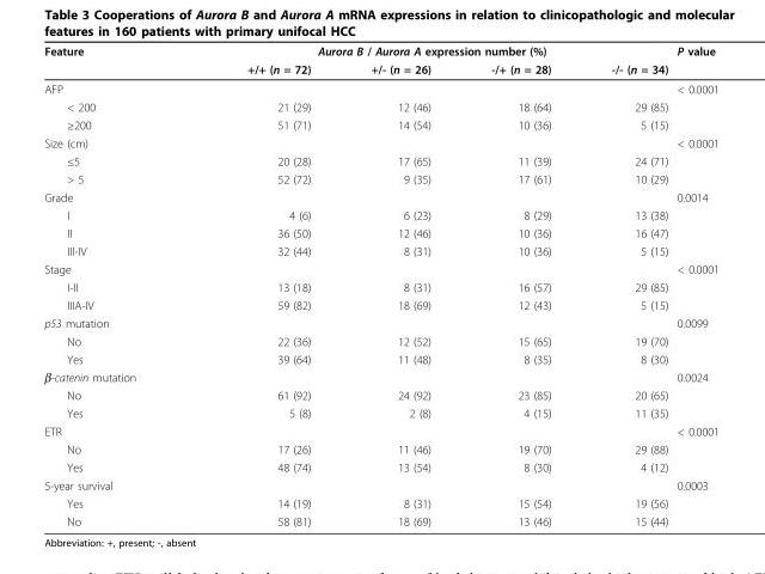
<table><thead><tr><td rowspan="2">Feature</td><td colspan="4">Aurora B / Aurora A expression number (%)</td><td rowspan="2">P value</td></tr><tr><td>+/+ (n = 72)</td><td>+/- (n = 26)</td><td>-/+ (n = 28)</td><td>-/- (n = 34)</td></tr></thead><tbody><tr><td>AFP</td><td></td><td></td><td></td><td></td><td>&lt; 0.0001</td></tr><tr><td>&lt; 200</td><td>21 (29)</td><td>12 (46)</td><td>18 (64)</td><td>29 (85)</td><td></td></tr><tr><td>≥200</td><td>51 (71)</td><td>14 (54)</td><td>10 (36)</td><td>5 (15)</td><td></td></tr><tr><td>Size (cm)</td><td></td><td></td><td></td><td></td><td>&lt; 0.0001</td></tr><tr><td>≤5</td><td>20 (28)</td><td>17 (65)</td><td>11 (39)</td><td>24 (71)</td><td></td></tr><tr><td>&gt; 5</td><td>52 (72)</td><td>9 (35)</td><td>17 (61)</td><td>10 (29)</td><td></td></tr><tr><td>Grade</td><td></td><td></td><td></td><td></td><td>0.0014</td></tr><tr><td>I</td><td>4 (6)</td><td>6 (23)</td><td>8 (29)</td><td>13 (38)</td><td></td></tr><tr><td>II</td><td>36 (50)</td><td>12 (46)</td><td>10 (36)</td><td>16 (47)</td><td></td></tr><tr><td>III-IV</td><td>32 (44)</td><td>8 (31)</td><td>10 (36)</td><td>5 (15)</td><td></td></tr><tr><td>Stage</td><td></td><td></td><td></td><td></td><td>&lt; 0.0001</td></tr><tr><td>I-II</td><td>13 (18)</td><td>8 (31)</td><td>16 (57)</td><td>29 (85)</td><td></td></tr><tr><td>IIIA-IV</td><td>59 (82)</td><td>18 (69)</td><td>12 (43)</td><td>5 (15)</td><td></td></tr><tr><td>p53 mutation</td><td></td><td></td><td></td><td></td><td>0.0099</td></tr><tr><td>No</td><td>22 (36)</td><td>12 (52)</td><td>15 (65)</td><td>19 (70)</td><td></td></tr><tr><td>Yes</td><td>39 (64)</td><td>11 (48)</td><td>8 (35)</td><td>8 (30)</td><td></td></tr><tr><td>β-catenin mutation</td><td></td><td></td><td></td><td></td><td>0.0024</td></tr><tr><td>No</td><td>61 (92)</td><td>24 (92)</td><td>23 (85)</td><td>20 (65)</td><td></td></tr><tr><td>Yes</td><td>5 (8)</td><td>2 (8)</td><td>4 (15)</td><td>11 (35)</td><td></td></tr><tr><td>ETR</td><td></td><td></td><td></td><td></td><td>&lt; 0.0001</td></tr><tr><td>No</td><td>17 (26)</td><td>11 (46)</td><td>19 (70)</td><td>29 (88)</td><td></td></tr><tr><td>Yes</td><td>48 (74)</td><td>13 (54)</td><td>8 (30)</td><td>4 (12)</td><td></td></tr><tr><td>5-year survival</td><td></td><td></td><td></td><td></td><td>0.0003</td></tr><tr><td>Yes</td><td>14 (19)</td><td>8 (31)</td><td>15 (54)</td><td>19 (56)</td><td></td></tr><tr><td>No</td><td>58 (81)</td><td>18 (69)</td><td>13 (46)</td><td>15 (44)</td><td></td></tr></tbody></table>